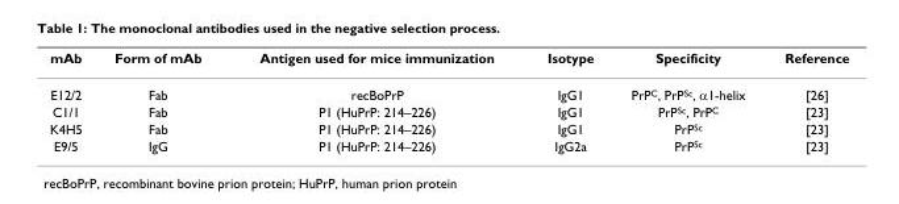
<table><thead><tr><td>mAb</td><td>Form of mAb</td><td>Antigen used for mice immunization</td><td>Isotype</td><td>Specificity</td><td>Reference</td></tr></thead><tbody><tr><td>E12/2</td><td>Fab</td><td>recBoPrP</td><td>IgG1</td><td>PrP<sup>C</sup>, PrP<sup>Sc</sup>, α1-helix</td><td>[26]</td></tr><tr><td>C1/1</td><td>Fab</td><td>P1 (HuPrP: 214–226)</td><td>IgG1</td><td>PrP<sup>Sc</sup>, PrP<sup>C</sup></td><td>[23]</td></tr><tr><td>K4H5</td><td>Fab</td><td>P1 (HuPrP: 214–226)</td><td>IgG1</td><td>PrP<sup>Sc</sup></td><td>[23]</td></tr><tr><td>E9/5</td><td>IgG</td><td>P1 (HuPrP: 214–226)</td><td>IgG2a</td><td>PrP<sup>Sc</sup></td><td>[23]</td></tr></tbody></table>